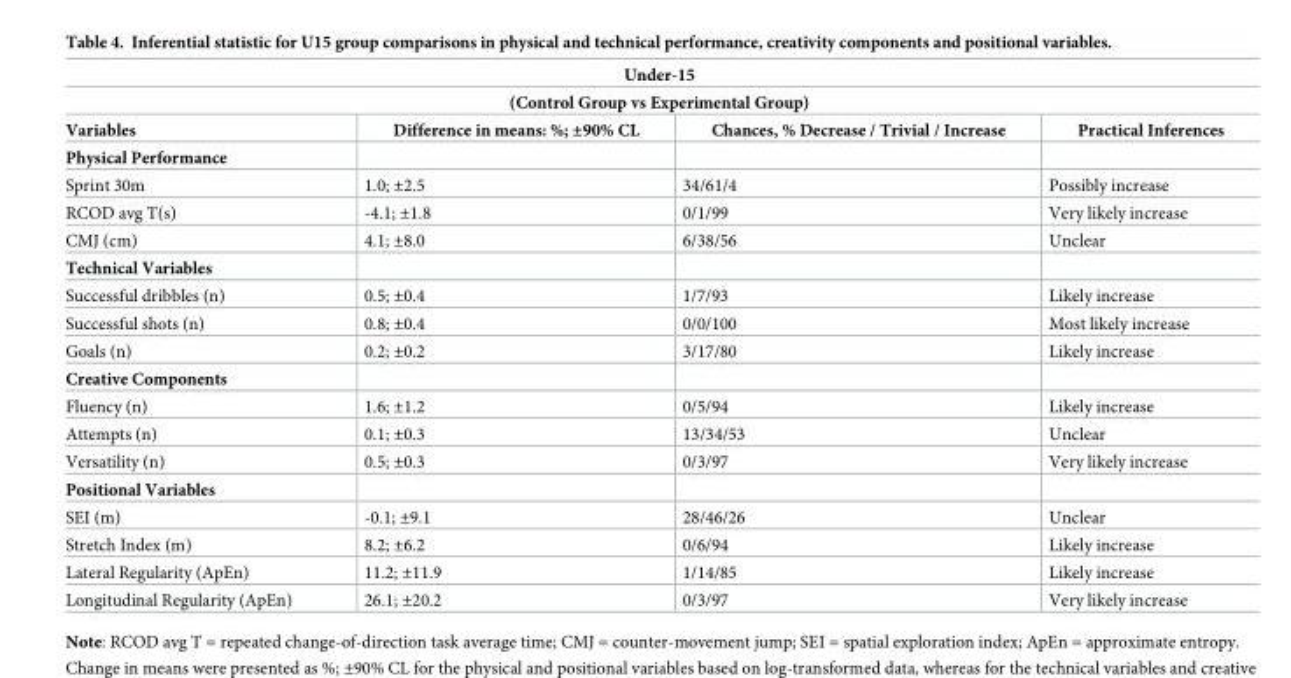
<table><thead><tr><td rowspan="2" colspan="4">Under-15 (Control Group vs Experimental Group)</td></tr><tr></tr><tr><td>Variables</td><td>Difference in means: %; ±90% CL</td><td>Chances, % Decrease / Trivial / Increase</td><td>Practical Inferences</td></tr></thead><tbody><tr><td colspan="4">Physical Performance</td></tr><tr><td>Sprint 30m</td><td>1.0; ±2.5</td><td>34/61/4</td><td>Possibly increase</td></tr><tr><td>RCOD avg T(s)</td><td>-4.1; ±1.8</td><td>0/1/99</td><td>Very likely increase</td></tr><tr><td>CMJ (cm)</td><td>4.1; ±8.0</td><td>6/38/56</td><td>Unclear</td></tr><tr><td colspan="4">Technical Variables</td></tr><tr><td>Successful dribbles (n)</td><td>0.5; ±0.4</td><td>1/7/93</td><td>Likely increase</td></tr><tr><td>Successful shots (n)</td><td>0.8; ±0.4</td><td>0/0/100</td><td>Most likely increase</td></tr><tr><td>Goals (n)</td><td>0.2; ±0.2</td><td>3/17/80</td><td>Likely increase</td></tr><tr><td colspan="4">Creative Components</td></tr><tr><td>Fluency (n)</td><td>1.6; ±1.2</td><td>0/5/94</td><td>Likely increase</td></tr><tr><td>Attempts (n)</td><td>0.1; ±0.3</td><td>13/34/53</td><td>Unclear</td></tr><tr><td>Versatility (n)</td><td>0.5; ±0.3</td><td>0/3/97</td><td>Very likely increase</td></tr><tr><td colspan="4">Positional Variables</td></tr><tr><td>SEI (m)</td><td>-0.1; ±9.1</td><td>28/46/26</td><td>Unclear</td></tr><tr><td>Stretch Index (m)</td><td>8.2; ±6.2</td><td>0/6/94</td><td>Likely increase</td></tr><tr><td>Lateral Regularity (ApEn)</td><td>11.2; ±11.9</td><td>1/14/85</td><td>Likely increase</td></tr><tr><td>Longitudinal Regularity (ApEn)</td><td>26.1; ±20.2</td><td>0/3/97</td><td>Very likely increase</td></tr></tbody></table>